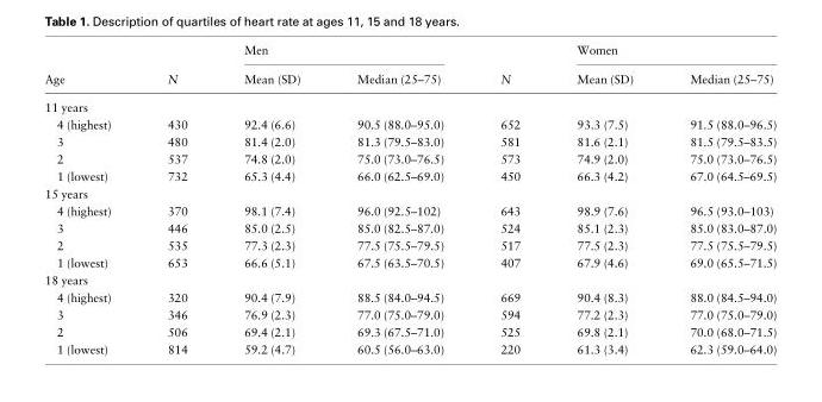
<table><thead><tr><td rowspan="2">Age</td><td rowspan="2">N</td><td colspan="2">Men</td><td rowspan="2">N</td><td colspan="2">Women</td></tr><tr><td>Mean (SD)</td><td>Median (25–75)</td><td>Mean (SD)</td><td>Median (25–75)</td></tr></thead><tbody><tr><td colspan="7">11 years</td></tr><tr><td>4 (highest)</td><td>430</td><td>92.4 (6.6)</td><td>90.5 (88.0–95.0)</td><td>652</td><td>93.3 (7.5)</td><td>91.5 (88.0–96.5)</td></tr><tr><td>3</td><td>480</td><td>81.4 (2.0)</td><td>81.3 (79.5–83.0)</td><td>581</td><td>81.6 (2.1)</td><td>81.5 (79.5–83.5)</td></tr><tr><td>2</td><td>537</td><td>74.8 (2.0)</td><td>75.0 (73.0–76.5)</td><td>573</td><td>74.9 (2.0)</td><td>75.0 (73.0–76.5)</td></tr><tr><td>1 (lowest)</td><td>732</td><td>65.3 (4.4)</td><td>66.0 (62.5–69.0)</td><td>450</td><td>66.3 (4.2)</td><td>67.0 (64.5–69.5)</td></tr><tr><td colspan="7">15 years</td></tr><tr><td>4 (highest)</td><td>370</td><td>98.1 (7.4)</td><td>96.0 (92.5–102)</td><td>643</td><td>98.9 (7.6)</td><td>96.5 (93.0–103)</td></tr><tr><td>3</td><td>446</td><td>85.0 (2.5)</td><td>85.0 (82.5–87.0)</td><td>524</td><td>85.1 (2.3)</td><td>85.0 (83.0–87.0)</td></tr><tr><td>2</td><td>535</td><td>77.3 (2.3)</td><td>77.5 (75.5–79.5)</td><td>517</td><td>77.5 (2.3)</td><td>77.5 (75.5–79.5)</td></tr><tr><td>1 (lowest)</td><td>653</td><td>66.6 (5.1)</td><td>67.5 (63.5–70.5)</td><td>407</td><td>67.9 (4.6)</td><td>69.0 (65.5–71.5)</td></tr><tr><td colspan="7">18 years</td></tr><tr><td>4 (highest)</td><td>320</td><td>90.4 (7.9)</td><td>88.5 (84.0–94.5)</td><td>669</td><td>90.4 (8.3)</td><td>88.0 (84.5–94.0)</td></tr><tr><td>3</td><td>346</td><td>76.9 (2.3)</td><td>77.0 (75.0–79.0)</td><td>594</td><td>77.2 (2.3)</td><td>77.0 (75.0–79.0)</td></tr><tr><td>2</td><td>506</td><td>69.4 (2.1)</td><td>69.3 (67.5–71.0)</td><td>525</td><td>69.8 (2.1)</td><td>70.0 (68.0–71.5)</td></tr><tr><td>1 (lowest)</td><td>814</td><td>59.2 (4.7)</td><td>60.5 (56.0–63.0)</td><td>220</td><td>61.3 (3.4)</td><td>62.3 (59.0–64.0)</td></tr></tbody></table>